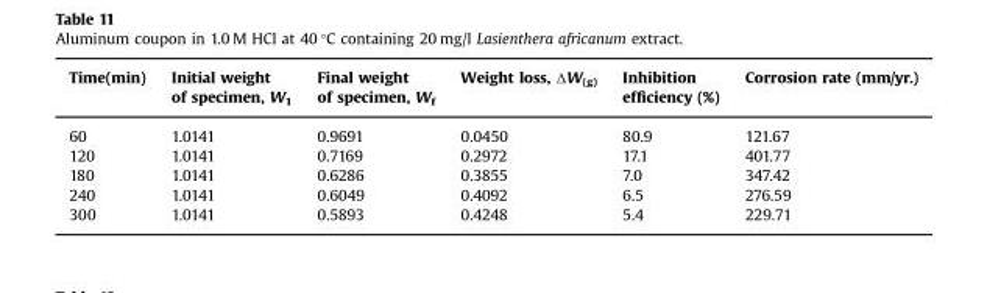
<table><thead><tr><td>Time(min)</td><td>Initial weight of specimen, W<sub>1</sub></td><td>Final weight of specimen, W<sub>f</sub></td><td>Weight loss, ΔW(g)</td><td>Inhibition efficiency (%)</td><td>Corrosion rate (mm/yr.)</td></tr></thead><tbody><tr><td>60</td><td>1.0141</td><td>0.9691</td><td>0.0450</td><td>80.9</td><td>121.67</td></tr><tr><td>120</td><td>1.0141</td><td>0.7169</td><td>0.2972</td><td>17.1</td><td>401.77</td></tr><tr><td>180</td><td>1.0141</td><td>0.6286</td><td>0.3855</td><td>7.0</td><td>347.42</td></tr><tr><td>240</td><td>1.0141</td><td>0.6049</td><td>0.4092</td><td>6.5</td><td>276.59</td></tr><tr><td>300</td><td>1.0141</td><td>0.5893</td><td>0.4248</td><td>5.4</td><td>229.71</td></tr></tbody></table>